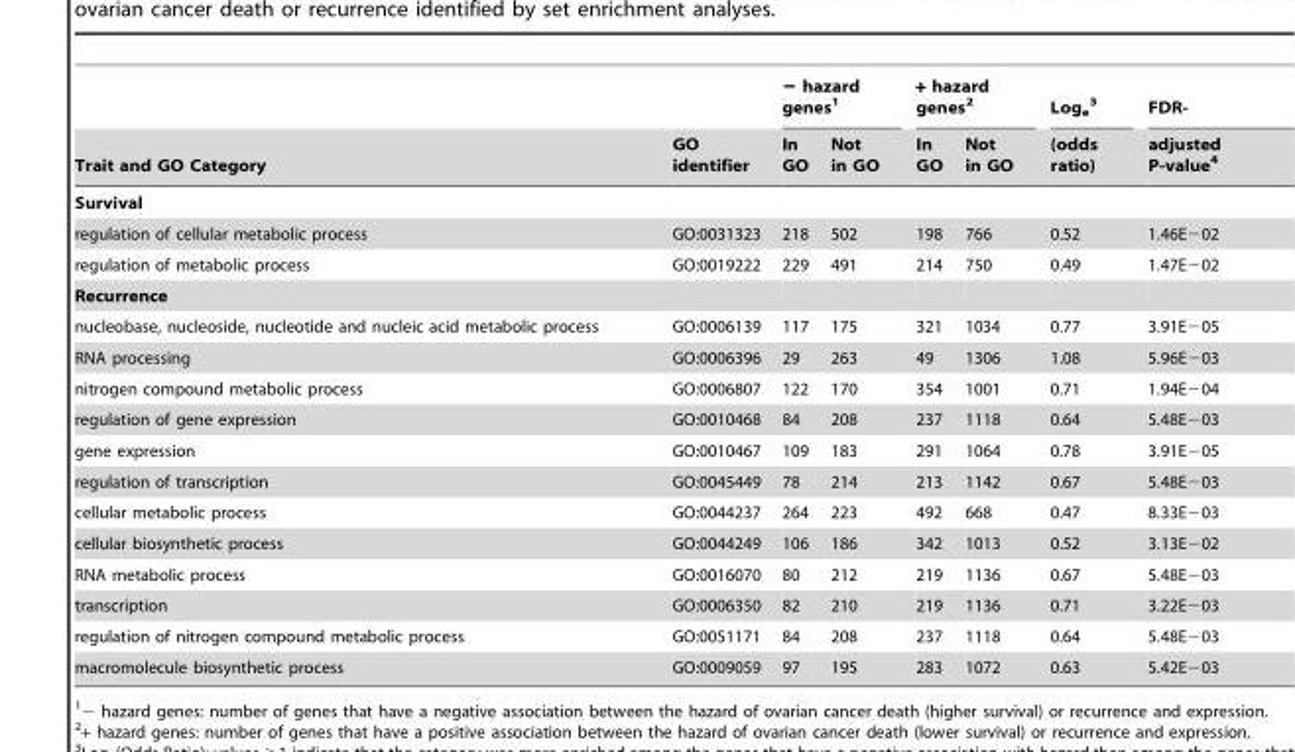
<table><thead><tr><td rowspan="2">Trait and GO Category</td><td rowspan="2">GO identifier</td><td colspan="2">− hazard genes<sup>1</sup></td><td colspan="2">+ hazard genes<sup>2</sup></td><td rowspan="2">Log<sub>e</sub> 3 (odds ratio)</td><td rowspan="2">FDR- adjusted P-value<sup>4</sup></td></tr><tr><td>In GO</td><td>Not in GO</td><td>In GO</td><td>Not in GO</td></tr></thead><tbody><tr><td colspan="8">Survival</td></tr><tr><td>regulation of cellular metabolic process</td><td>GO:0031323</td><td>218</td><td>502</td><td>198</td><td>766</td><td>0.52</td><td>1.46E−02</td></tr><tr><td>regulation of metabolic process</td><td>GO:0019222</td><td>229</td><td>491</td><td>214</td><td>750</td><td>0.49</td><td>1.47E−02</td></tr><tr><td colspan="8">Recurrence</td></tr><tr><td>nucleobase, nucleoside, nucleotide and nucleic acid metabolic process</td><td>GO:0006139</td><td>117</td><td>175</td><td>321</td><td>1034</td><td>0.77</td><td>3.91E−05</td></tr><tr><td>RNA processing</td><td>GO:0006396</td><td>29</td><td>263</td><td>49</td><td>1306</td><td>1.08</td><td>5.96E−03</td></tr><tr><td>nitrogen compound metabolic process</td><td>GO:0006807</td><td>122</td><td>170</td><td>354</td><td>1001</td><td>0.71</td><td>1.94E−04</td></tr><tr><td>regulation of gene expression</td><td>GO:0010468</td><td>84</td><td>208</td><td>237</td><td>1118</td><td>0.64</td><td>5.48E−03</td></tr><tr><td>gene expression</td><td>GO:0010467</td><td>109</td><td>183</td><td>291</td><td>1064</td><td>0.78</td><td>3.91E−05</td></tr><tr><td>regulation of transcription</td><td>GO:0045449</td><td>78</td><td>214</td><td>213</td><td>1142</td><td>0.67</td><td>5.48E−03</td></tr><tr><td>cellular metabolic process</td><td>GO:0044237</td><td>264</td><td>223</td><td>492</td><td>668</td><td>0.47</td><td>8.33E−03</td></tr><tr><td>cellular biosynthetic process</td><td>GO:0044249</td><td>106</td><td>186</td><td>342</td><td>1013</td><td>0.52</td><td>3.13E−02</td></tr><tr><td>RNA metabolic process</td><td>GO:0016070</td><td>80</td><td>212</td><td>219</td><td>1136</td><td>0.67</td><td>5.48E−03</td></tr><tr><td>transcription</td><td>GO:0006350</td><td>82</td><td>210</td><td>219</td><td>1136</td><td>0.71</td><td>3.22E−03</td></tr><tr><td>regulation of nitrogen compound metabolic process</td><td>GO:0051171</td><td>84</td><td>208</td><td>237</td><td>1118</td><td>0.64</td><td>5.48E−03</td></tr><tr><td>macromolecule biosynthetic process</td><td>GO:0009059</td><td>97</td><td>195</td><td>283</td><td>1072</td><td>0.63</td><td>5.42E−03</td></tr></tbody></table>